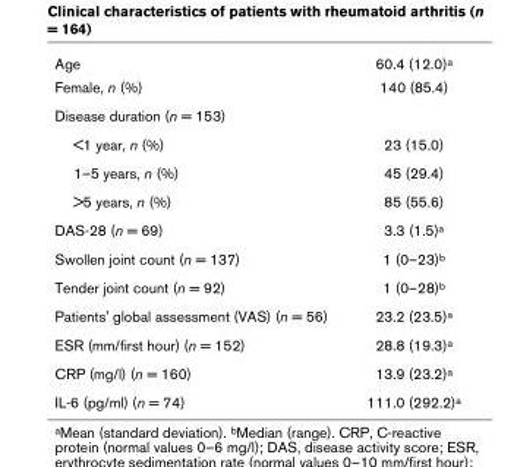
<table><tbody><tr><td>Age</td><td>60.4 (12.0)a</td></tr><tr><td>Female, n (%)</td><td>140 (85.4)</td></tr><tr><td colspan="2">Disease duration (n = 153)</td></tr><tr><td>&lt;1 year, n (%)</td><td>23 (15.0)</td></tr><tr><td>1–5 years, n (%)</td><td>45 (29.4)</td></tr><tr><td>&gt;5 years, n (%)</td><td>85 (55.6)</td></tr><tr><td>DAS-28 (n = 69)</td><td>3.3 (1.5)a</td></tr><tr><td>Swollen joint count (n = 137)</td><td>1 (0–23)b</td></tr><tr><td>Tender joint count (n = 92)</td><td>1 (0–28)b</td></tr><tr><td>Patients&#x27; global assessment (VAS) (n = 56)</td><td>23.2 (23.5)a</td></tr><tr><td>ESR (mm/first hour) (n = 152)</td><td>28.8 (19.3)a</td></tr><tr><td>CRP (mg/l) (n = 160)</td><td>13.9 (23.2)a</td></tr><tr><td>IL-6 (pg/ml) (n = 74)</td><td>111.0 (292.2)a</td></tr></tbody></table>